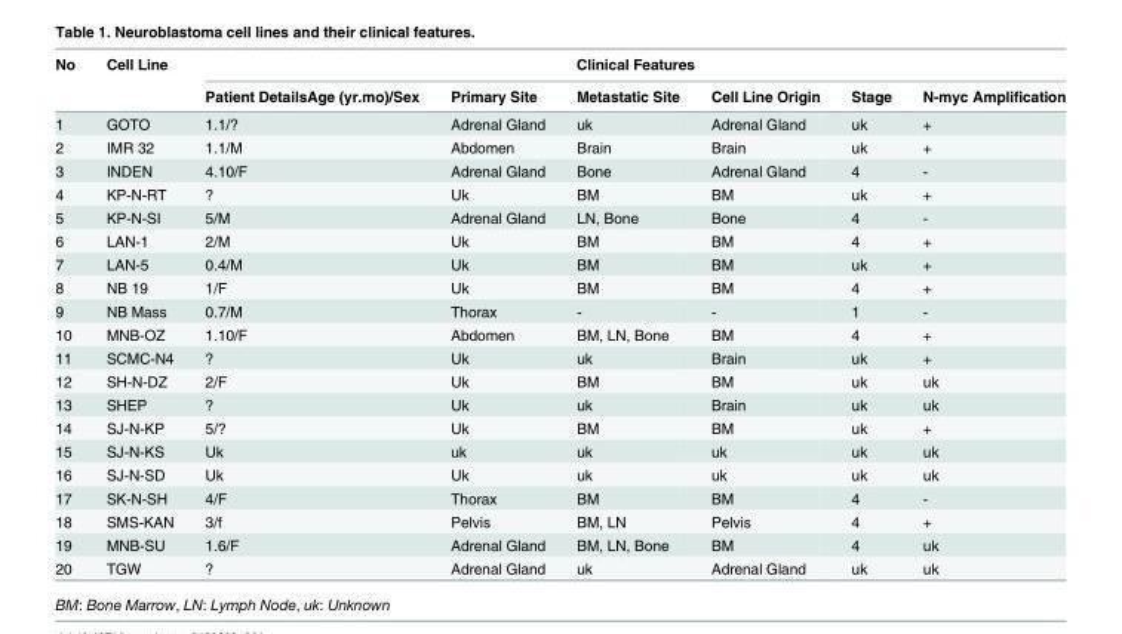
<table><thead><tr><td rowspan="2">No</td><td rowspan="2">Cell Line</td><td colspan="6">Clinical Features</td></tr><tr><td>Patient DetailsAge (yr.mo)/Sex</td><td>Primary Site</td><td>Metastatic Site</td><td>Cell Line Origin</td><td>Stage</td><td>N-myc Amplification</td></tr></thead><tbody><tr><td>1</td><td>GOTO</td><td>1.1/?</td><td>Adrenal Gland</td><td>uk</td><td>Adrenal Gland</td><td>uk</td><td>+</td></tr><tr><td>2</td><td>IMR 32</td><td>1.1/M</td><td>Abdomen</td><td>Brain</td><td>Brain</td><td>uk</td><td>+</td></tr><tr><td>3</td><td>INDEN</td><td>4.10/F</td><td>Adrenal Gland</td><td>Bone</td><td>Adrenal Gland</td><td>4</td><td>-</td></tr><tr><td>4</td><td>KP-N-RT</td><td>?</td><td>Uk</td><td>BM</td><td>BM</td><td>uk</td><td>+</td></tr><tr><td>5</td><td>KP-N-SI</td><td>5/M</td><td>Adrenal Gland</td><td>LN, Bone</td><td>Bone</td><td>4</td><td>-</td></tr><tr><td>6</td><td>LAN-1</td><td>2/M</td><td>Uk</td><td>BM</td><td>BM</td><td>4</td><td>+</td></tr><tr><td>7</td><td>LAN-5</td><td>0.4/M</td><td>Uk</td><td>BM</td><td>BM</td><td>uk</td><td>+</td></tr><tr><td>8</td><td>NB 19</td><td>1/F</td><td>Uk</td><td>BM</td><td>BM</td><td>4</td><td>+</td></tr><tr><td>9</td><td>NB Mass</td><td>0.7/M</td><td>Thorax</td><td>-</td><td>-</td><td>1</td><td>-</td></tr><tr><td>10</td><td>MNB-OZ</td><td>1.10/F</td><td>Abdomen</td><td>BM, LN, Bone</td><td>BM</td><td>4</td><td>+</td></tr><tr><td>11</td><td>SCMC-N4</td><td>?</td><td>Uk</td><td>uk</td><td>Brain</td><td>uk</td><td>+</td></tr><tr><td>12</td><td>SH-N-DZ</td><td>2/F</td><td>Uk</td><td>BM</td><td>BM</td><td>uk</td><td>uk</td></tr><tr><td>13</td><td>SHEP</td><td>?</td><td>Uk</td><td>uk</td><td>Brain</td><td>uk</td><td>uk</td></tr><tr><td>14</td><td>SJ-N-KP</td><td>5/?</td><td>Uk</td><td>BM</td><td>BM</td><td>uk</td><td>+</td></tr><tr><td>15</td><td>SJ-N-KS</td><td>Uk</td><td>uk</td><td>uk</td><td>uk</td><td>uk</td><td>uk</td></tr><tr><td>16</td><td>SJ-N-SD</td><td>Uk</td><td>Uk</td><td>uk</td><td>uk</td><td>uk</td><td>uk</td></tr><tr><td>17</td><td>SK-N-SH</td><td>4/F</td><td>Thorax</td><td>BM</td><td>BM</td><td>4</td><td>-</td></tr><tr><td>18</td><td>SMS-KAN</td><td>3/f</td><td>Pelvis</td><td>BM, LN</td><td>Pelvis</td><td>4</td><td>+</td></tr><tr><td>19</td><td>MNB-SU</td><td>1.6/F</td><td>Adrenal Gland</td><td>BM, LN, Bone</td><td>BM</td><td>4</td><td>uk</td></tr><tr><td>20</td><td>TGW</td><td>?</td><td>Adrenal Gland</td><td>uk</td><td>Adrenal Gland</td><td>uk</td><td>uk</td></tr></tbody></table>